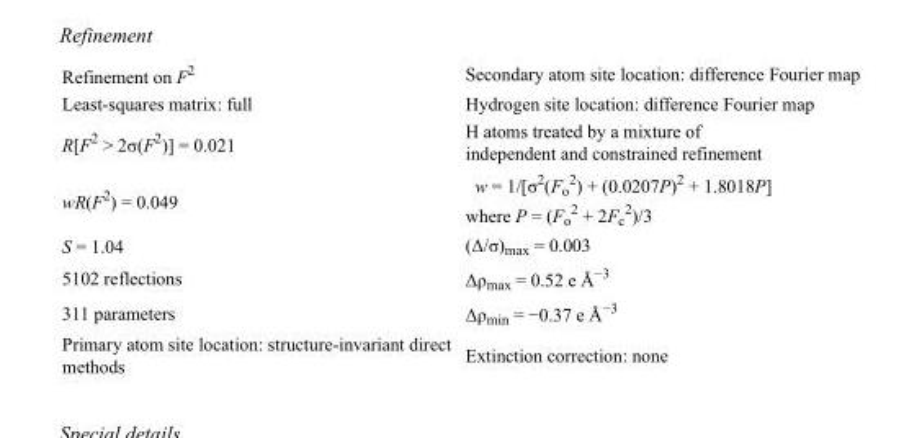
<table><tbody><tr><td>Refinement on F<sup>2</sup></td><td>Secondary atom site location: difference Fourier map</td></tr><tr><td>Least-squares matrix: full</td><td>Hydrogen site location: difference Fourier map</td></tr><tr><td>R[F<sup>2</sup> &gt; 2σ(F<sup>2</sup>)] = 0.021</td><td>H atoms treated by a mixture of independent and constrained refinement</td></tr><tr><td>wR(F<sup>2</sup>) = 0.049</td><td>w = 1/[σ<sup>2</sup>(F<sub>o</sub> <sup>2</sup>) + (0.0207P)<sup>2</sup> + 1.8018P] where P = (F<sub>o</sub> <sup>2</sup> + 2F<sub>c</sub> <sup>2</sup>)/3</td></tr><tr><td>S = 1.04</td><td>(Δ/σ)<sub>max</sub> = 0.003</td></tr><tr><td>5102 reflections</td><td>Δρ<sub>max</sub> = 0.52 e Å<sup>−3</sup></td></tr><tr><td>311 parameters</td><td>Δρ<sub>min</sub> = −0.37 e Å<sup>−3</sup></td></tr><tr><td>Primary atom site location: structure-invariant direct methods</td><td>Extinction correction: none</td></tr></tbody></table>